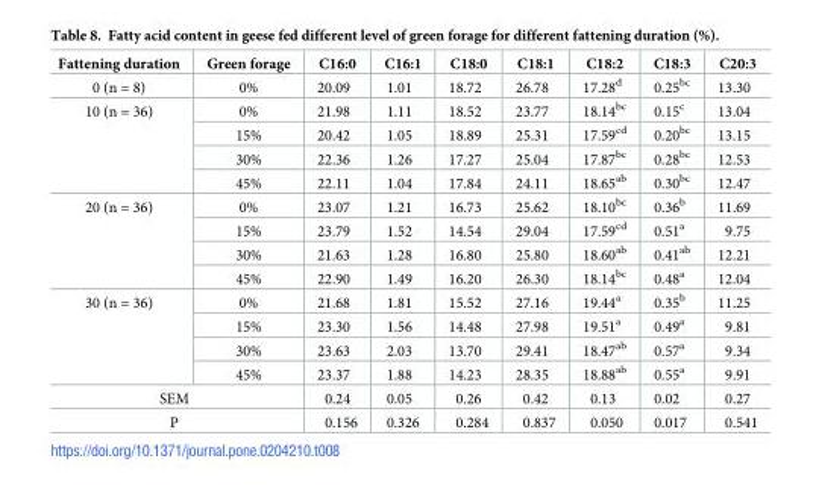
<table><thead><tr><td>Fattening duration</td><td>Green forage</td><td>C16:0</td><td>C16:1</td><td>C18:0</td><td>C18:1</td><td>C18:2</td><td>C18:3</td><td>C20:3</td></tr></thead><tbody><tr><td>0 (n = 8)</td><td>0%</td><td>20.09</td><td>1.01</td><td>18.72</td><td>26.78</td><td>17.28<sup>d</sup></td><td>0.25<sup>bc</sup></td><td>13.30</td></tr><tr><td rowspan="4">10 (n = 36)</td><td>0%</td><td>21.98</td><td>1.11</td><td>18.52</td><td>23.77</td><td>18.14<sup>bc</sup></td><td>0.15<sup>c</sup></td><td>13.04</td></tr><tr><td>15%</td><td>20.42</td><td>1.05</td><td>18.89</td><td>25.31</td><td>17.59<sup>cd</sup></td><td>0.20<sup>bc</sup></td><td>13.15</td></tr><tr><td>30%</td><td>22.36</td><td>1.26</td><td>17.27</td><td>25.04</td><td>17.87<sup>bc</sup></td><td>0.28<sup>bc</sup></td><td>12.53</td></tr><tr><td>45%</td><td>22.11</td><td>1.04</td><td>17.84</td><td>24.11</td><td>18.65<sup>ab</sup></td><td>0.30<sup>bc</sup></td><td>12.47</td></tr><tr><td rowspan="4">20 (n = 36)</td><td>0%</td><td>23.07</td><td>1.21</td><td>16.73</td><td>25.62</td><td>18.10<sup>bc</sup></td><td>0.36<sup>b</sup></td><td>11.69</td></tr><tr><td>15%</td><td>23.79</td><td>1.52</td><td>14.54</td><td>29.04</td><td>17.59<sup>cd</sup></td><td>0.51<sup>a</sup></td><td>9.75</td></tr><tr><td>30%</td><td>21.63</td><td>1.28</td><td>16.80</td><td>25.80</td><td>18.60<sup>ab</sup></td><td>0.41<sup>ab</sup></td><td>12.21</td></tr><tr><td>45%</td><td>22.90</td><td>1.49</td><td>16.20</td><td>26.30</td><td>18.14<sup>bc</sup></td><td>0.48<sup>a</sup></td><td>12.04</td></tr><tr><td rowspan="4">30 (n = 36)</td><td>0%</td><td>21.68</td><td>1.81</td><td>15.52</td><td>27.16</td><td>19.44<sup>a</sup></td><td>0.35<sup>b</sup></td><td>11.25</td></tr><tr><td>15%</td><td>23.30</td><td>1.56</td><td>14.48</td><td>27.98</td><td>19.51<sup>a</sup></td><td>0.49<sup>a</sup></td><td>9.81</td></tr><tr><td>30%</td><td>23.63</td><td>2.03</td><td>13.70</td><td>29.41</td><td>18.47<sup>ab</sup></td><td>0.57<sup>a</sup></td><td>9.34</td></tr><tr><td>45%</td><td>23.37</td><td>1.88</td><td>14.23</td><td>28.35</td><td>18.88<sup>ab</sup></td><td>0.55<sup>a</sup></td><td>9.91</td></tr><tr><td colspan="2">SEM</td><td>0.24</td><td>0.05</td><td>0.26</td><td>0.42</td><td>0.13</td><td>0.02</td><td>0.27</td></tr><tr><td colspan="2">P</td><td>0.156</td><td>0.326</td><td>0.284</td><td>0.837</td><td>0.050</td><td>0.017</td><td>0.541</td></tr></tbody></table>